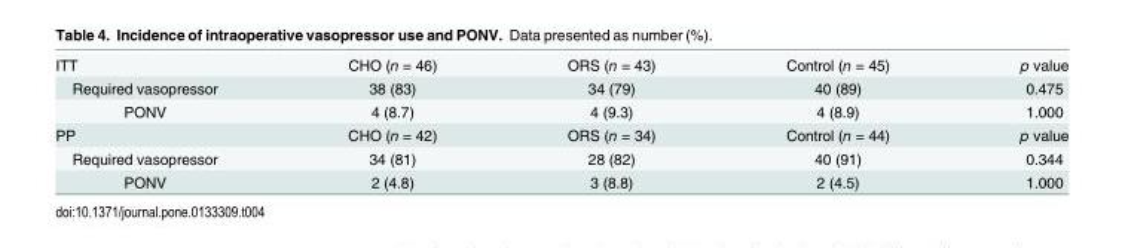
<table><tbody><tr><td>ITT</td><td>CHO (n = 46)</td><td>ORS (n = 43)</td><td>Control (n = 45)</td><td>p value</td></tr><tr><td>Required vasopressor</td><td>38 (83)</td><td>34 (79)</td><td>40 (89)</td><td>0.475</td></tr><tr><td>PONV</td><td>4 (8.7)</td><td>4 (9.3)</td><td>4 (8.9)</td><td>1.000</td></tr><tr><td>PP</td><td>CHO (n = 42)</td><td>ORS (n = 34)</td><td>Control (n = 44)</td><td>p value</td></tr><tr><td>Required vasopressor</td><td>34 (81)</td><td>28 (82)</td><td>40 (91)</td><td>0.344</td></tr><tr><td>PONV</td><td>2 (4.8)</td><td>3 (8.8)</td><td>2 (4.5)</td><td>1.000</td></tr></tbody></table>